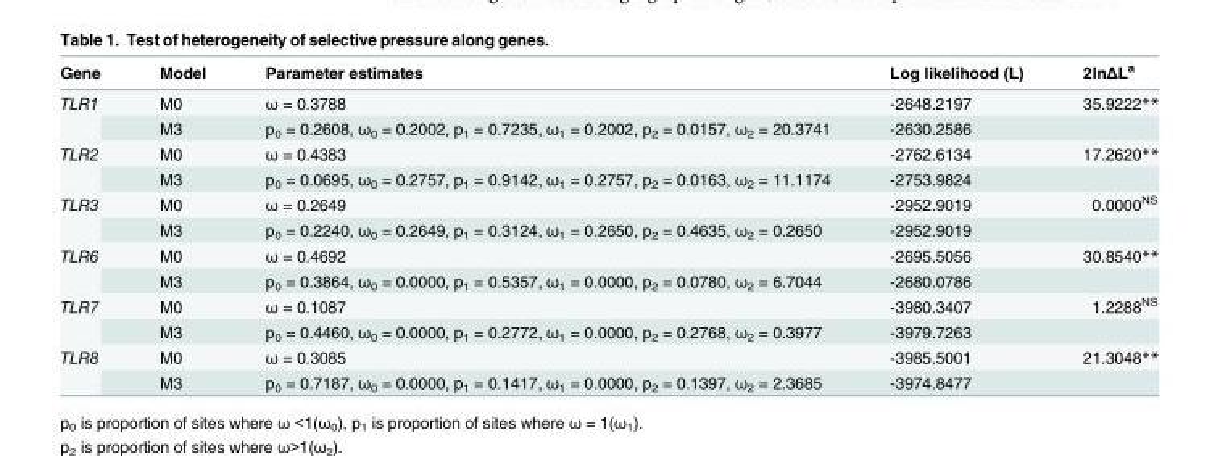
<table><thead><tr><td>Gene</td><td>Model</td><td>Parameter estimates</td><td>Log likelihood (L)</td><td>2lnΔL<sup>a</sup></td></tr></thead><tbody><tr><td rowspan="2">TLR1</td><td>M0</td><td>ω = 0.3788</td><td>-2648.2197</td><td>35.9222**</td></tr><tr><td>M3</td><td>p<sub>0</sub> = 0.2608, ω<sub>0</sub> = 0.2002, p<sub>1</sub> = 0.7235, ω<sub>1</sub> = 0.2002, p<sub>2</sub> = 0.0157, ω<sub>2</sub> = 20.3741</td><td>-2630.2586</td><td></td></tr><tr><td rowspan="2">TLR2</td><td>M0</td><td>ω = 0.4383</td><td>-2762.6134</td><td>17.2620**</td></tr><tr><td>M3</td><td>p<sub>0</sub> = 0.0695, ω<sub>0</sub> = 0.2757, p<sub>1</sub> = 0.9142, ω<sub>1</sub> = 0.2757, p<sub>2</sub> = 0.0163, ω<sub>2</sub> = 11.1174</td><td>-2753.9824</td><td></td></tr><tr><td rowspan="2">TLR3</td><td>M0</td><td>ω = 0.2649</td><td>-2952.9019</td><td>0.0000<sup>NS</sup></td></tr><tr><td>M3</td><td>p<sub>0</sub> = 0.2240, ω<sub>0</sub> = 0.2649, p<sub>1</sub> = 0.3124, ω<sub>1</sub> = 0.2650, p<sub>2</sub> = 0.4635, ω<sub>2</sub> = 0.2650</td><td>-2952.9019</td><td></td></tr><tr><td rowspan="2">TLR6</td><td>M0</td><td>ω = 0.4692</td><td>-2695.5056</td><td>30.8540**</td></tr><tr><td>M3</td><td>p<sub>0</sub> = 0.3864, ω<sub>0</sub> = 0.0000, p<sub>1</sub> = 0.5357, ω<sub>1</sub> = 0.0000, p<sub>2</sub> = 0.0780, ω<sub>2</sub> = 6.7044</td><td>-2680.0786</td><td></td></tr><tr><td rowspan="2">TLR7</td><td>M0</td><td>ω = 0.1087</td><td>-3980.3407</td><td>1.2288<sup>NS</sup></td></tr><tr><td>M3</td><td>p<sub>0</sub> = 0.4460, ω<sub>0</sub> = 0.0000, p<sub>1</sub> = 0.2772, ω<sub>1</sub> = 0.0000, p<sub>2</sub> = 0.2768, ω<sub>2</sub> = 0.3977</td><td>-3979.7263</td><td></td></tr><tr><td rowspan="2">TLR8</td><td>M0</td><td>ω = 0.3085</td><td>-3985.5001</td><td>21.3048**</td></tr><tr><td>M3</td><td>p<sub>0</sub> = 0.7187, ω<sub>0</sub> = 0.0000, p<sub>1</sub> = 0.1417, ω<sub>1</sub> = 0.0000, p<sub>2</sub> = 0.1397, ω<sub>2</sub> = 2.3685</td><td>-3974.8477</td><td></td></tr></tbody></table>